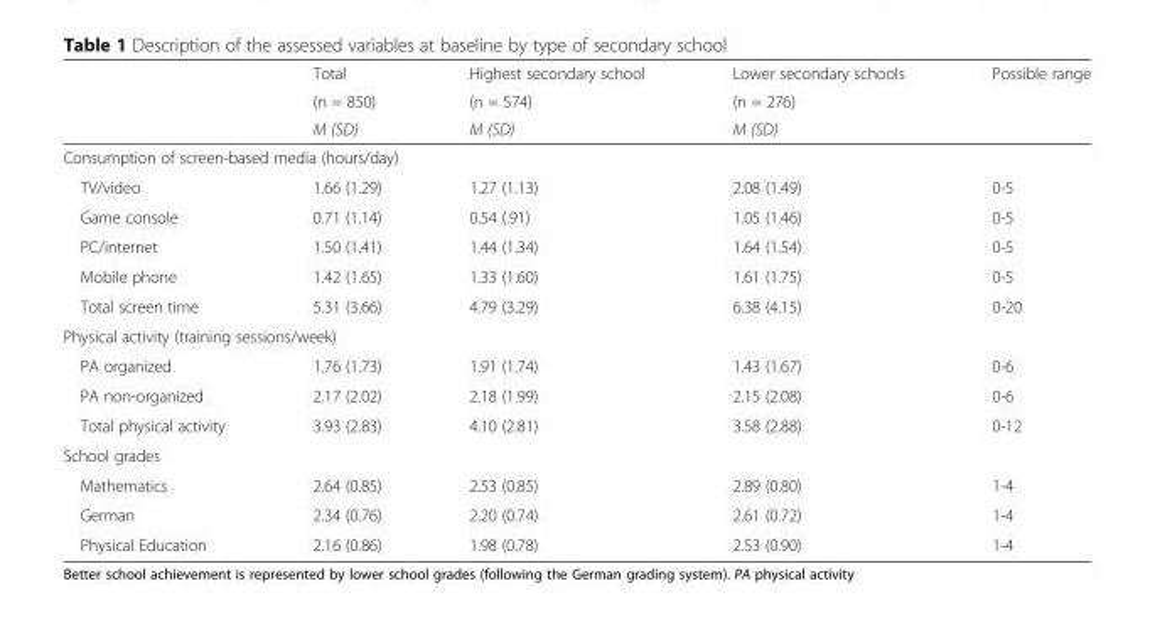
<table><thead><tr><td rowspan="3"></td><td rowspan="3">Total (n = 850) M (SD)</td><td rowspan="3">Highest secondary school (n = 574) M (SD)</td><td rowspan="3">Lower secondary schools (n = 276) M (SD)</td><td rowspan="3">Possible range</td></tr><tr></tr><tr></tr></thead><tbody><tr><td colspan="5">Consumption of screen-based media (hours/day)</td></tr><tr><td>TV/video</td><td>1.66 (1.29)</td><td>1.27 (1.13)</td><td>2.08 (1.49)</td><td>0-5</td></tr><tr><td>Game console</td><td>0.71 (1.14)</td><td>0.54 (.91)</td><td>1.05 (1.46)</td><td>0-5</td></tr><tr><td>PC/internet</td><td>1.50 (1.41)</td><td>1.44 (1.34)</td><td>1.64 (1.54)</td><td>0-5</td></tr><tr><td>Mobile phone</td><td>1.42 (1.65)</td><td>1.33 (1.60)</td><td>1.61 (1.75)</td><td>0-5</td></tr><tr><td>Total screen time</td><td>5.31 (3.66)</td><td>4.79 (3.29)</td><td>6.38 (4.15)</td><td>0-20</td></tr><tr><td colspan="5">Physical activity (training sessions/week)</td></tr><tr><td>PA organized</td><td>1.76 (1.73)</td><td>1.91 (1.74)</td><td>1.43 (1.67)</td><td>0-6</td></tr><tr><td>PA non-organized</td><td>2.17 (2.02)</td><td>2.18 (1.99)</td><td>2.15 (2.08)</td><td>0-6</td></tr><tr><td>Total physical activity</td><td>3.93 (2.83)</td><td>4.10 (2.81)</td><td>3.58 (2.88)</td><td>0-12</td></tr><tr><td colspan="5">School grades</td></tr><tr><td>Mathematics</td><td>2.64 (0.85)</td><td>2.53 (0.85)</td><td>2.89 (0.80)</td><td>1-4</td></tr><tr><td>German</td><td>2.34 (0.76)</td><td>2.20 (0.74)</td><td>2.61 (0.72)</td><td>1-4</td></tr><tr><td>Physical Education</td><td>2.16 (0.86)</td><td>1.98 (0.78)</td><td>2.53 (0.90)</td><td>1-4</td></tr></tbody></table>